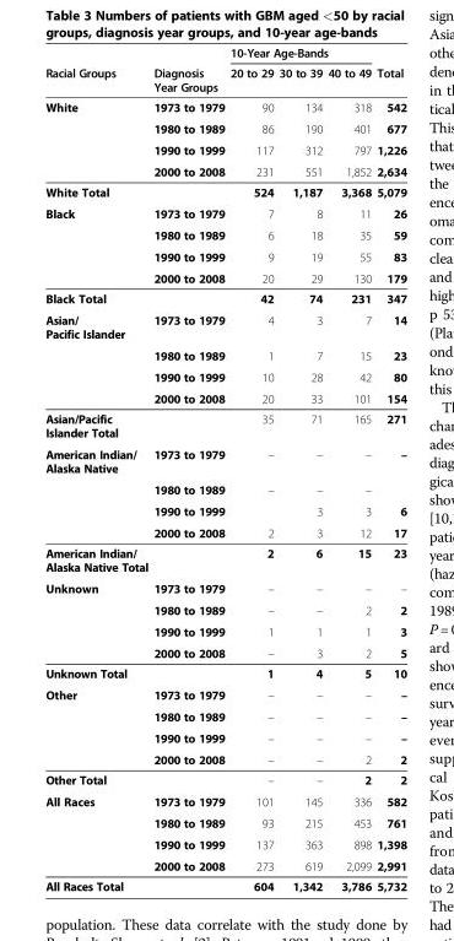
<table><thead><tr><td rowspan="2">Racial Groups</td><td rowspan="2">Diagnosis Year Groups</td><td colspan="3">10-Year Age-Bands</td><td rowspan="2">Total</td></tr><tr><td>20 to 29</td><td>30 to 39</td><td>40 to 49</td></tr></thead><tbody><tr><td rowspan="4">White</td><td>1973 to 1979</td><td>90</td><td>134</td><td>318</td><td>542</td></tr><tr><td>1980 to 1989</td><td>86</td><td>190</td><td>401</td><td>677</td></tr><tr><td>1990 to 1999</td><td>117</td><td>312</td><td>797</td><td>1,226</td></tr><tr><td>2000 to 2008</td><td>231</td><td>551</td><td>1,852</td><td>2,634</td></tr><tr><td>White Total</td><td></td><td>524</td><td>1,187</td><td>3,368</td><td>5,079</td></tr><tr><td rowspan="4">Black</td><td>1973 to 1979</td><td>7</td><td>8</td><td>11</td><td>26</td></tr><tr><td>1980 to 1989</td><td>6</td><td>18</td><td>35</td><td>59</td></tr><tr><td>1990 to 1999</td><td>9</td><td>19</td><td>55</td><td>83</td></tr><tr><td>2000 to 2008</td><td>20</td><td>29</td><td>130</td><td>179</td></tr><tr><td>Black Total</td><td></td><td>42</td><td>74</td><td>231</td><td>347</td></tr><tr><td rowspan="4">Asian/ Pacific Islander</td><td>1973 to 1979</td><td>4</td><td>3</td><td>7</td><td>14</td></tr><tr><td>1980 to 1989</td><td>1</td><td>7</td><td>15</td><td>23</td></tr><tr><td>1990 to 1999</td><td>10</td><td>28</td><td>42</td><td>80</td></tr><tr><td>2000 to 2008</td><td>20</td><td>33</td><td>101</td><td>154</td></tr><tr><td>Asian/Pacific Islander Total</td><td></td><td>35</td><td>71</td><td>165</td><td>271</td></tr><tr><td rowspan="4">American Indian/ Alaska Native</td><td>1973 to 1979</td><td>–</td><td>–</td><td>–</td><td>–</td></tr><tr><td>1980 to 1989</td><td>–</td><td>–</td><td>–</td><td></td></tr><tr><td>1990 to 1999</td><td></td><td>3</td><td>3</td><td>6</td></tr><tr><td>2000 to 2008</td><td>2</td><td>3</td><td>12</td><td>17</td></tr><tr><td>American Indian/ Alaska Native Total</td><td></td><td>2</td><td>6</td><td>15</td><td>23</td></tr><tr><td rowspan="4">Unknown</td><td>1973 to 1979</td><td>–</td><td>–</td><td>–</td><td>–</td></tr><tr><td>1980 to 1989</td><td>–</td><td>–</td><td>2</td><td>2</td></tr><tr><td>1990 to 1999</td><td>1</td><td>1</td><td>1</td><td>3</td></tr><tr><td>2000 to 2008</td><td>–</td><td>3</td><td>2</td><td>5</td></tr><tr><td>Unknown Total</td><td></td><td>1</td><td>4</td><td>5</td><td>10</td></tr><tr><td rowspan="4">Other</td><td>1973 to 1979</td><td>–</td><td>–</td><td>–</td><td>–</td></tr><tr><td>1980 to 1989</td><td>–</td><td>–</td><td>–</td><td>–</td></tr><tr><td>1990 to 1999</td><td>–</td><td>–</td><td>–</td><td>–</td></tr><tr><td>2000 to 2008</td><td>–</td><td>–</td><td>2</td><td>2</td></tr><tr><td>Other Total</td><td></td><td>–</td><td>–</td><td>2</td><td>2</td></tr><tr><td rowspan="4">All Races</td><td>1973 to 1979</td><td>101</td><td>145</td><td>336</td><td>582</td></tr><tr><td>1980 to 1989</td><td>93</td><td>215</td><td>453</td><td>761</td></tr><tr><td>1990 to 1999</td><td>137</td><td>363</td><td>898</td><td>1,398</td></tr><tr><td>2000 to 2008</td><td>273</td><td>619</td><td>2,099</td><td>2,991</td></tr><tr><td>All Races Total</td><td></td><td>604</td><td>1,342</td><td>3,786</td><td>5,732</td></tr></tbody></table>